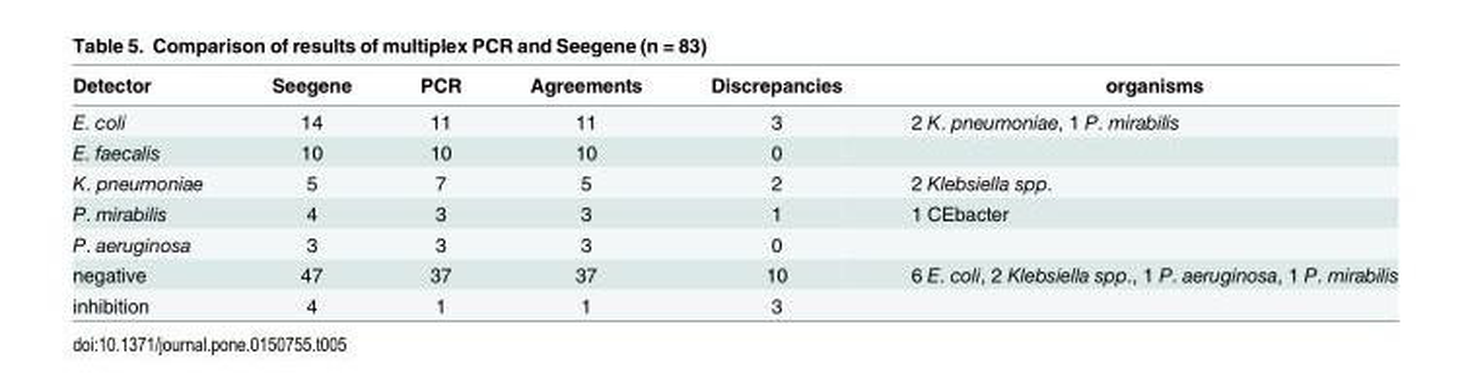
<table><thead><tr><td>Detector</td><td>Seegene</td><td>PCR</td><td>Agreements</td><td>Discrepancies</td><td>organisms</td></tr></thead><tbody><tr><td>E. coli</td><td>14</td><td>11</td><td>11</td><td>3</td><td>2 K. pneumoniae, 1 P. mirabilis</td></tr><tr><td>E. faecalis</td><td>10</td><td>10</td><td>10</td><td>0</td><td></td></tr><tr><td>K. pneumoniae</td><td>5</td><td>7</td><td>5</td><td>2</td><td>2 Klebsiella spp.</td></tr><tr><td>P. mirabilis</td><td>4</td><td>3</td><td>3</td><td>1</td><td>1 CEbacter</td></tr><tr><td>P. aeruginosa</td><td>3</td><td>3</td><td>3</td><td>0</td><td></td></tr><tr><td>negative</td><td>47</td><td>37</td><td>37</td><td>10</td><td>6 E. coli, 2 Klebsiella spp., 1 P. aeruginosa, 1 P. mirabilis</td></tr><tr><td>inhibition</td><td>4</td><td>1</td><td>1</td><td>3</td><td></td></tr></tbody></table>